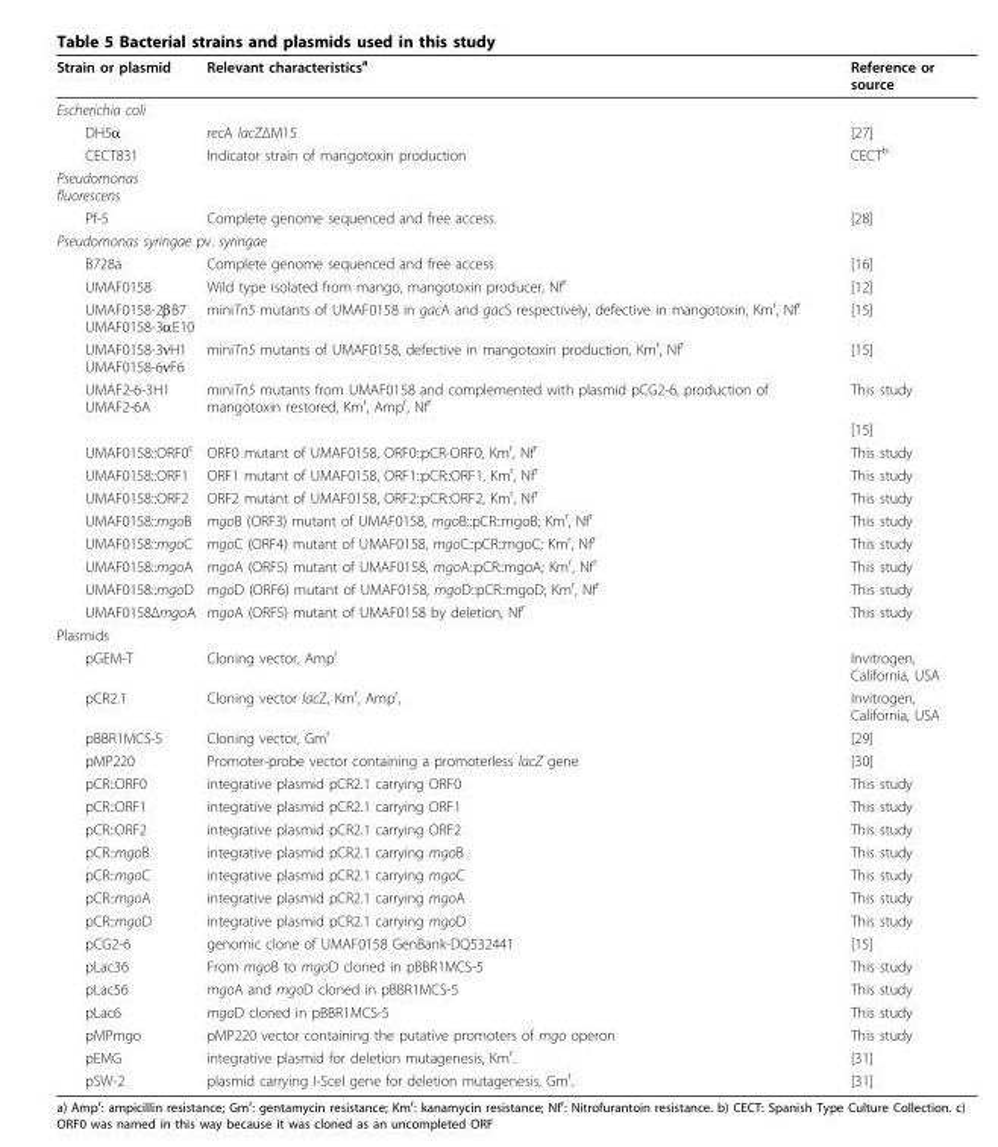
<table><thead><tr><td>Strain or plasmid</td><td>Relevant characteristics<sup>a</sup></td><td>Reference or source</td></tr></thead><tbody><tr><td colspan="3">Escherichia coli</td></tr><tr><td>DH5α</td><td>recA lacZΔM15</td><td>[27]</td></tr><tr><td>CECT831</td><td>Indicator strain of mangotoxin production</td><td>CECT<sup>b</sup></td></tr><tr><td colspan="3">Pseudomonas fluorescens</td></tr><tr><td>Pf-5</td><td>Complete genome sequenced and free access.</td><td>[28]</td></tr><tr><td colspan="3">Pseudomonas syringae pv. syringae</td></tr><tr><td>B728a</td><td>Complete genome sequenced and free access</td><td>[16]</td></tr><tr><td>UMAF0158</td><td>Wild type isolated from mango, mangotoxin producer, Nf<sup>r</sup></td><td>[12]</td></tr><tr><td>UMAF0158-2βB7 UMAF0158-3αE10</td><td>miniTn5 mutants of UMAF0158 in gacA and gacS respectively, defective in mangotoxin, Km<sup>r</sup>, Nf<sup>r</sup></td><td>[15]</td></tr><tr><td>UMAF0158-3νH1 UMAF0158-6νF6</td><td>miniTn5 mutants of UMAF0158, defective in mangotoxin production, Km<sup>r</sup>, Nf<sup>r</sup></td><td>[15]</td></tr><tr><td rowspan="2">UMAF2-6-3H1 UMAF2-6A</td><td>miniTn5 mutants from UMAF0158 and complemented with plasmid pCG2-6, production of mangotoxin restored, Km<sup>r</sup>, Amp<sup>r</sup>, Nf<sup>r</sup></td><td>This study</td></tr><tr><td></td><td>[15]</td></tr><tr><td>UMAF0158::ORF0<sup>c</sup></td><td>ORF0 mutant of UMAF0158, ORF0::pCR-ORF0, Km<sup>r</sup>, Nf<sup>r</sup></td><td>This study</td></tr><tr><td>UMAF0158::ORF1</td><td>ORF1 mutant of UMAF0158, ORF1::pCR::ORF1, Km<sup>r</sup>, Nf<sup>r</sup></td><td>This study</td></tr><tr><td>UMAF0158::ORF2</td><td>ORF2 mutant of UMAF0158, ORF2::pCR::ORF2, Km<sup>r</sup>, Nf<sup>r</sup></td><td>This study</td></tr><tr><td>UMAF0158::mgoB</td><td>mgoB (ORF3) mutant of UMAF0158, mgoB::pCR::mgoB; Km<sup>r</sup>, Nf<sup>r</sup></td><td>This study</td></tr><tr><td>UMAF0158::mgoC</td><td>mgoC (ORF4) mutant of UMAF0158, mgoC::pCR::mgoC; Km<sup>r</sup>, Nf<sup>r</sup></td><td>This study</td></tr><tr><td>UMAF0158::mgoA</td><td>mgoA (ORF5) mutant of UMAF0158, mgoA::pCR::mgoA; Km<sup>r</sup>, Nf<sup>r</sup></td><td>This study</td></tr><tr><td>UMAF0158::mgoD</td><td>mgoD (ORF6) mutant of UMAF0158, mgoD::pCR::mgoD; Km<sup>r</sup>, Nf<sup>r</sup></td><td>This study</td></tr><tr><td>UMAF0158ΔmgoA</td><td>mgoA (ORF5) mutant of UMAF0158 by deletion, Nf<sup>r</sup></td><td>This study</td></tr><tr><td colspan="3">Plasmids</td></tr><tr><td>pGEM-T</td><td>Cloning vector, Amp<sup>r</sup></td><td>Invitrogen, California, USA</td></tr><tr><td>pCR2.1</td><td>Cloning vector lacZ, Km<sup>r</sup>, Amp<sup>r</sup>,</td><td>Invitrogen, California, USA</td></tr><tr><td>pBBR1MCS-5</td><td>Cloning vector, Gm<sup>r</sup></td><td>[29]</td></tr><tr><td>pMP220</td><td>Promoter-probe vector containing a promoterless lacZ gene</td><td>[30]</td></tr><tr><td>pCR::ORF0</td><td>integrative plasmid pCR2.1 carrying ORF0</td><td>This study</td></tr><tr><td>pCR::ORF1</td><td>integrative plasmid pCR2.1 carrying ORF1</td><td>This study</td></tr><tr><td>pCR::ORF2</td><td>integrative plasmid pCR2.1 carrying ORF2</td><td>This study</td></tr><tr><td>pCR::mgoB</td><td>integrative plasmid pCR2.1 carrying mgoB</td><td>This study</td></tr><tr><td>pCR::mgoC</td><td>integrative plasmid pCR2.1 carrying mgoC</td><td>This study</td></tr><tr><td>pCR::mgoA</td><td>integrative plasmid pCR2.1 carrying mgoA</td><td>This study</td></tr><tr><td>pCR::mgoD</td><td>integrative plasmid pCR2.1 carrying mgoD</td><td>This study</td></tr><tr><td>pCG2-6</td><td>genomic clone of UMAF0158 GenBank-DQ532441</td><td>[15]</td></tr><tr><td>pLac36</td><td>From mgoB to mgoD cloned in pBBR1MCS-5</td><td>This study</td></tr><tr><td>pLac56</td><td>mgoA and mgoD cloned in pBBR1MCS-5</td><td>This study</td></tr><tr><td>pLac6</td><td>mgoD cloned in pBBR1MCS-5</td><td>This study</td></tr><tr><td>pMPmgo</td><td>pMP220 vector containing the putative promoters of mgo operon</td><td>This study</td></tr><tr><td>pEMG</td><td>integrative plasmid for deletion mutagenesis, Km<sup>r</sup>.</td><td>[31]</td></tr><tr><td>pSW-2</td><td>plasmid carrying I-SceI gene for deletion mutagenesis, Gm<sup>r</sup>.</td><td>[31]</td></tr></tbody></table>